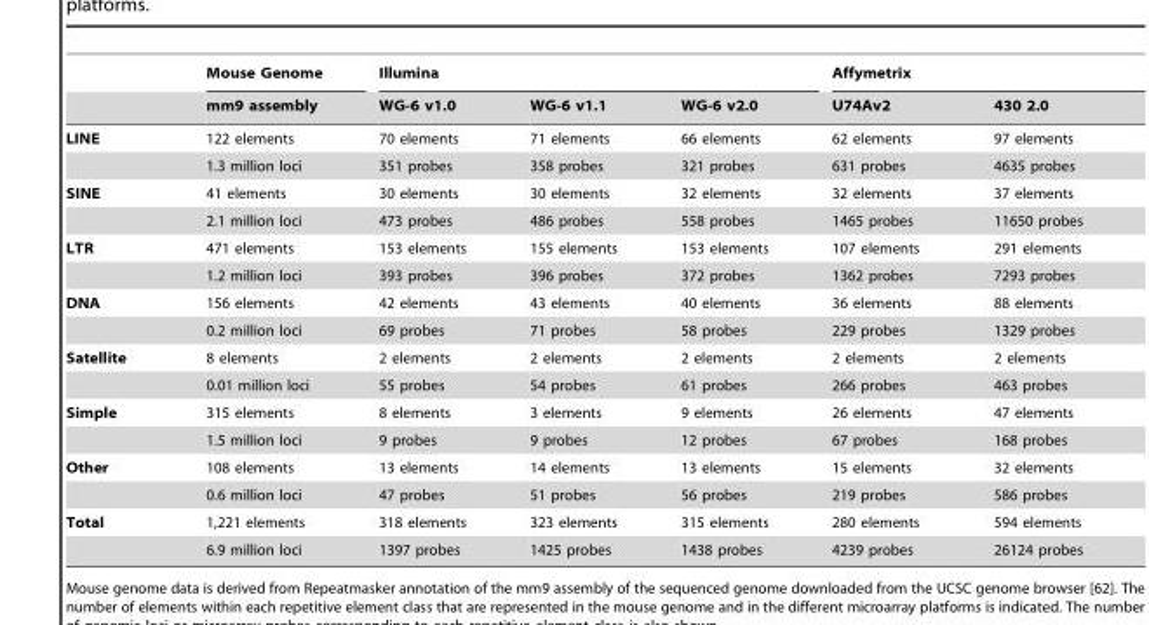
<table><thead><tr><td rowspan="2"></td><td rowspan="2">Mouse Genome mm9 assembly</td><td colspan="3">Illumina</td><td colspan="2">Affymetrix</td></tr><tr><td>WG-6 v1.0</td><td>WG-6 v1.1</td><td>WG-6 v2.0</td><td>U74Av2</td><td>430 2.0</td></tr></thead><tbody><tr><td rowspan="2">LINE</td><td>122 elements</td><td>70 elements</td><td>71 elements</td><td>66 elements</td><td>62 elements</td><td>97 elements</td></tr><tr><td>1.3 million loci</td><td>351 probes</td><td>358 probes</td><td>321 probes</td><td>631 probes</td><td>4635 probes</td></tr><tr><td rowspan="2">SINE</td><td>41 elements</td><td>30 elements</td><td>30 elements</td><td>32 elements</td><td>32 elements</td><td>37 elements</td></tr><tr><td>2.1 million loci</td><td>473 probes</td><td>486 probes</td><td>558 probes</td><td>1465 probes</td><td>11650 probes</td></tr><tr><td rowspan="2">LTR</td><td>471 elements</td><td>153 elements</td><td>155 elements</td><td>153 elements</td><td>107 elements</td><td>291 elements</td></tr><tr><td>1.2 million loci</td><td>393 probes</td><td>396 probes</td><td>372 probes</td><td>1362 probes</td><td>7293 probes</td></tr><tr><td rowspan="2">DNA</td><td>156 elements</td><td>42 elements</td><td>43 elements</td><td>40 elements</td><td>36 elements</td><td>88 elements</td></tr><tr><td>0.2 million loci</td><td>69 probes</td><td>71 probes</td><td>58 probes</td><td>229 probes</td><td>1329 probes</td></tr><tr><td rowspan="2">Satellite</td><td>8 elements</td><td>2 elements</td><td>2 elements</td><td>2 elements</td><td>2 elements</td><td>2 elements</td></tr><tr><td>0.01 million loci</td><td>55 probes</td><td>54 probes</td><td>61 probes</td><td>266 probes</td><td>463 probes</td></tr><tr><td rowspan="2">Simple</td><td>315 elements</td><td>8 elements</td><td>3 elements</td><td>9 elements</td><td>26 elements</td><td>47 elements</td></tr><tr><td>1.5 million loci</td><td>9 probes</td><td>9 probes</td><td>12 probes</td><td>67 probes</td><td>168 probes</td></tr><tr><td rowspan="2">Other</td><td>108 elements</td><td>13 elements</td><td>14 elements</td><td>13 elements</td><td>15 elements</td><td>32 elements</td></tr><tr><td>0.6 million loci</td><td>47 probes</td><td>51 probes</td><td>56 probes</td><td>219 probes</td><td>586 probes</td></tr><tr><td rowspan="2">Total</td><td>1,221 elements</td><td>318 elements</td><td>323 elements</td><td>315 elements</td><td>280 elements</td><td>594 elements</td></tr><tr><td>6.9 million loci</td><td>1397 probes</td><td>1425 probes</td><td>1438 probes</td><td>4239 probes</td><td>26124 probes</td></tr></tbody></table>